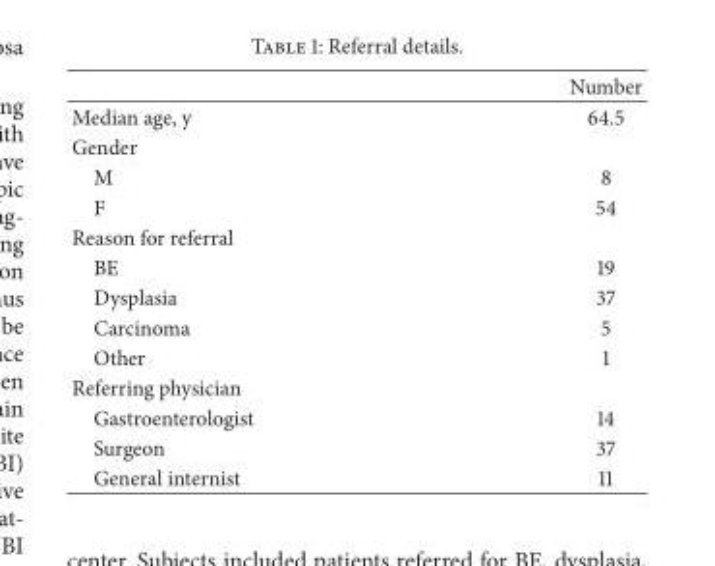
<table><thead><tr><td></td><td>Number</td></tr></thead><tbody><tr><td>Median age, y</td><td>64.5</td></tr><tr><td colspan="2">Gender</td></tr><tr><td>M</td><td>8</td></tr><tr><td>F</td><td>54</td></tr><tr><td colspan="2">Reason for referral</td></tr><tr><td>BE</td><td>19</td></tr><tr><td>Dysplasia</td><td>37</td></tr><tr><td>Carcinoma</td><td>5</td></tr><tr><td>Other</td><td>1</td></tr><tr><td colspan="2">Referring physician</td></tr><tr><td>Gastroenterologist</td><td>14</td></tr><tr><td>Surgeon</td><td>37</td></tr><tr><td>General internist</td><td>11</td></tr></tbody></table>